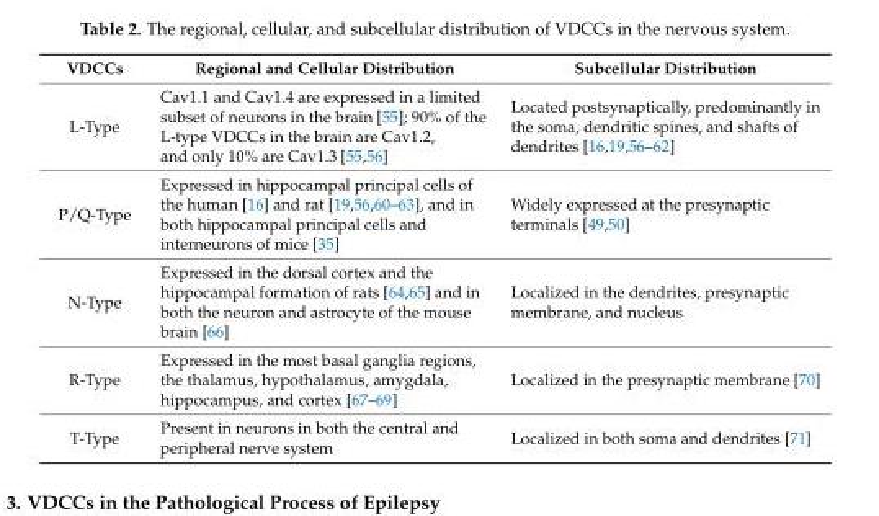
<table><thead><tr><td>VDCCs</td><td>Regional and Cellular Distribution</td><td>Subcellular Distribution</td></tr></thead><tbody><tr><td>L-Type</td><td>Cav1.1 and Cav1.4 are expressed in a limited subset of neurons in the brain [55]; 90% of the L-type VDCCs in the brain are Cav1.2, and only 10% are Cav1.3 [55,56]</td><td>Located postsynaptically, predominantly in the soma, dendritic spines, and shafts of dendrites [16,19,56–62]</td></tr><tr><td>P/Q-Type</td><td>Expressed in hippocampal principal cells of the human [16] and rat [19,56,60–63], and in both hippocampal principal cells and interneurons of mice [35]</td><td>Widely expressed at the presynaptic terminals [49,50]</td></tr><tr><td>N-Type</td><td>Expressed in the dorsal cortex and the hippocampal formation of rats [64,65] and in both the neuron and astrocyte of the mouse brain [66]</td><td>Localized in the dendrites, presynaptic membrane, and nucleus</td></tr><tr><td>R-Type</td><td>Expressed in the most basal ganglia regions, the thalamus, hypothalamus, amygdala, hippocampus, and cortex [67–69]</td><td>Localized in the presynaptic membrane [70]</td></tr><tr><td>T-Type</td><td>Present in neurons in both the central and peripheral nerve system</td><td>Localized in both soma and dendrites [71]</td></tr></tbody></table>